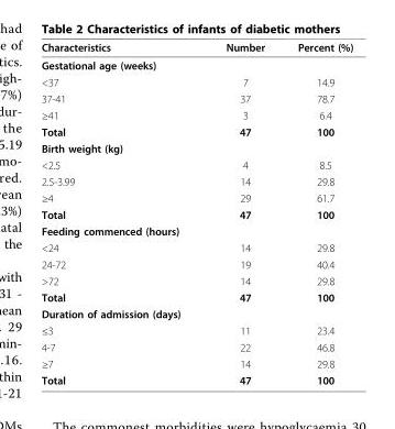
<table><thead><tr><td>Characteristics</td><td>Number</td><td>Percent (%)</td></tr></thead><tbody><tr><td colspan="3">Gestational age (weeks)</td></tr><tr><td>&lt;37</td><td>7</td><td>14.9</td></tr><tr><td>37-41</td><td>37</td><td>78.7</td></tr><tr><td>≥41</td><td>3</td><td>6.4</td></tr><tr><td>Total</td><td>47</td><td>100</td></tr><tr><td colspan="3">Birth weight (kg)</td></tr><tr><td>&lt;2.5</td><td>4</td><td>8.5</td></tr><tr><td>2.5-3.99</td><td>14</td><td>29.8</td></tr><tr><td>≥4</td><td>29</td><td>61.7</td></tr><tr><td>Total</td><td>47</td><td>100</td></tr><tr><td colspan="3">Feeding commenced (hours)</td></tr><tr><td>&lt;24</td><td>14</td><td>29.8</td></tr><tr><td>24-72</td><td>19</td><td>40.4</td></tr><tr><td>&gt;72</td><td>14</td><td>29.8</td></tr><tr><td>Total</td><td>47</td><td>100</td></tr><tr><td colspan="3">Duration of admission (days)</td></tr><tr><td>≤3</td><td>11</td><td>23.4</td></tr><tr><td>4-7</td><td>22</td><td>46.8</td></tr><tr><td>≥7</td><td>14</td><td>29.8</td></tr><tr><td>Total</td><td>47</td><td>100</td></tr></tbody></table>